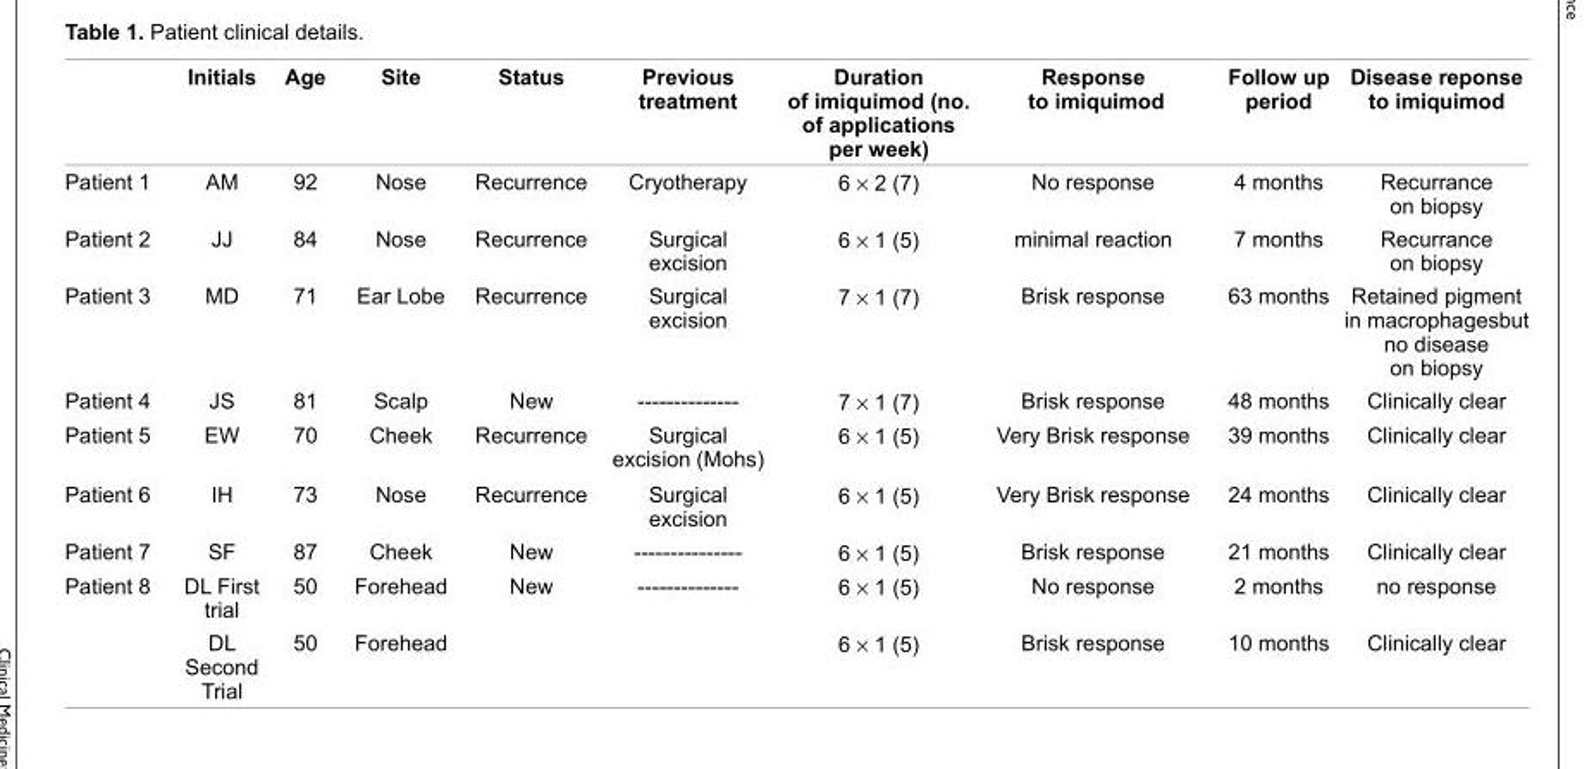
<table><thead><tr><td></td><td>Initials</td><td>Age</td><td>Site</td><td>Status</td><td>Previous treatment</td><td>Duration of imiquimod (no. of applications per week)</td><td>Response to imiquimod</td><td>Follow up period</td><td>Disease reponse to imiquimod</td></tr></thead><tbody><tr><td>Patient 1</td><td>AM</td><td>92</td><td>Nose</td><td>Recurrence</td><td>Cryotherapy</td><td>6 × 2 (7)</td><td>No response</td><td>4 months</td><td>Recurrance on biopsy</td></tr><tr><td>Patient 2</td><td>JJ</td><td>84</td><td>Nose</td><td>Recurrence</td><td>Surgical excision</td><td>6 × 1 (5)</td><td>minimal reaction</td><td>7 months</td><td>Recurrance on biopsy</td></tr><tr><td>Patient 3</td><td>MD</td><td>71</td><td>Ear Lobe</td><td>Recurrence</td><td>Surgical excision</td><td>7 × 1 (7)</td><td>Brisk response</td><td>63 months</td><td>Retained pigment in macrophagesbut no disease on biopsy</td></tr><tr><td>Patient 4</td><td>JS</td><td>81</td><td>Scalp</td><td>New</td><td>--------------</td><td>7 × 1 (7)</td><td>Brisk response</td><td>48 months</td><td>Clinically clear</td></tr><tr><td>Patient 5</td><td>EW</td><td>70</td><td>Cheek</td><td>Recurrence</td><td>Surgical excision (Mohs)</td><td>6 × 1 (5)</td><td>Very Brisk response</td><td>39 months</td><td>Clinically clear</td></tr><tr><td>Patient 6</td><td>IH</td><td>73</td><td>Nose</td><td>Recurrence</td><td>Surgical excision</td><td>6 × 1 (5)</td><td>Very Brisk response</td><td>24 months</td><td>Clinically clear</td></tr><tr><td>Patient 7</td><td>SF</td><td>87</td><td>Cheek</td><td>New</td><td>---------------</td><td>6 × 1 (5)</td><td>Brisk response</td><td>21 months</td><td>Clinically clear</td></tr><tr><td rowspan="2">Patient 8</td><td>DL First trial</td><td>50</td><td>Forehead</td><td>New</td><td>--------------</td><td>6 × 1 (5)</td><td>No response</td><td>2 months</td><td>no response</td></tr><tr><td>DL Second Trial</td><td>50</td><td>Forehead</td><td></td><td></td><td>6 × 1 (5)</td><td>Brisk response</td><td>10 months</td><td>Clinically clear</td></tr></tbody></table>